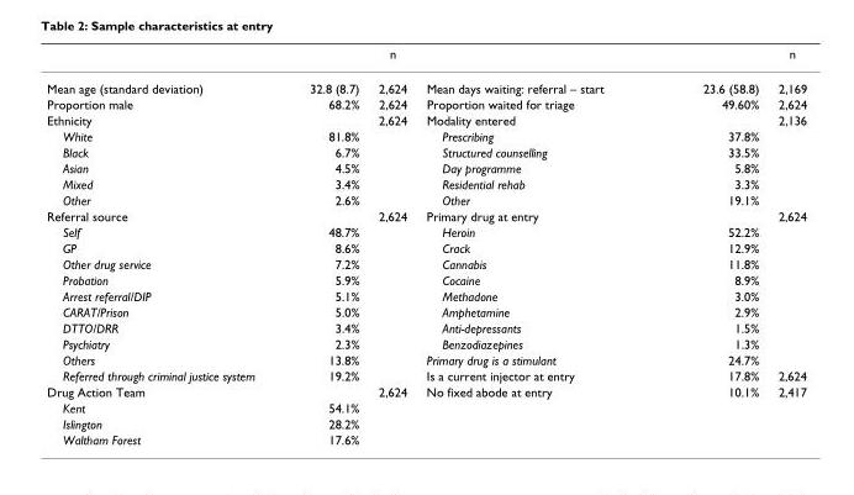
<table><thead><tr><td></td><td></td><td>n</td><td></td><td></td><td>n</td></tr></thead><tbody><tr><td>Mean age (standard deviation)</td><td>32.8 (8.7)</td><td>2,624</td><td>Mean days waiting: referral – start</td><td>23.6 (58.8)</td><td>2,169</td></tr><tr><td>Proportion male</td><td>68.2%</td><td>2,624</td><td>Proportion waited for triage</td><td>49.60%</td><td>2,624</td></tr><tr><td>Ethnicity</td><td></td><td>2,624</td><td>Modality entered</td><td></td><td>2,136</td></tr><tr><td>White</td><td>81.8%</td><td></td><td>Prescribing</td><td>37.8%</td><td></td></tr><tr><td>Black</td><td>6.7%</td><td></td><td>Structured counselling</td><td>33.5%</td><td></td></tr><tr><td>Asian</td><td>4.5%</td><td></td><td>Day programme</td><td>5.8%</td><td></td></tr><tr><td>Mixed</td><td>3.4%</td><td></td><td>Residential rehab</td><td>3.3%</td><td></td></tr><tr><td>Other</td><td>2.6%</td><td></td><td>Other</td><td>19.1%</td><td></td></tr><tr><td>Referral source</td><td></td><td>2,624</td><td>Primary drug at entry</td><td></td><td>2,624</td></tr><tr><td>Self</td><td>48.7%</td><td></td><td>Heroin</td><td>52.2%</td><td></td></tr><tr><td>GP</td><td>8.6%</td><td></td><td>Crack</td><td>12.9%</td><td></td></tr><tr><td>Other drug service</td><td>7.2%</td><td></td><td>Cannabis</td><td>11.8%</td><td></td></tr><tr><td>Probation</td><td>5.9%</td><td></td><td>Cocaine</td><td>8.9%</td><td></td></tr><tr><td>Arrest referral/DIP</td><td>5.1%</td><td></td><td>Methadone</td><td>3.0%</td><td></td></tr><tr><td>CARAT/Prison</td><td>5.0%</td><td></td><td>Amphetamine</td><td>2.9%</td><td></td></tr><tr><td>DTTO/DRR</td><td>3.4%</td><td></td><td>Anti-depressants</td><td>1.5%</td><td></td></tr><tr><td>Psychiatry</td><td>2.3%</td><td></td><td>Benzodiazepines</td><td>1.3%</td><td></td></tr><tr><td>Others</td><td>13.8%</td><td></td><td>Primary drug is a stimulant</td><td>24.7%</td><td></td></tr><tr><td>Referred through criminal justice system</td><td>19.2%</td><td></td><td>Is a current injector at entry</td><td>17.8%</td><td>2,624</td></tr><tr><td>Drug Action Team</td><td></td><td>2,624</td><td>No fixed abode at entry</td><td>10.1%</td><td>2,417</td></tr><tr><td>Kent</td><td>54.1%</td><td></td><td></td><td></td><td></td></tr><tr><td>Islington</td><td>28.2%</td><td></td><td></td><td></td><td></td></tr><tr><td>Waltham Forest</td><td>17.6%</td><td></td><td></td><td></td><td></td></tr></tbody></table>